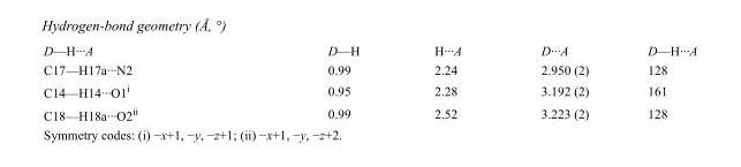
<table><tbody><tr><td>D—H···A</td><td>D—H</td><td>H···A</td><td>D···A</td><td>D—H···A</td></tr><tr><td>C17—H17a···N2</td><td>0.99</td><td>2.24</td><td>2.950 (2)</td><td>128</td></tr><tr><td>C14—H14···O1<sup>i</sup></td><td>0.95</td><td>2.28</td><td>3.192 (2)</td><td>161</td></tr><tr><td>C18—H18a···O2<sup>ii</sup></td><td>0.99</td><td>2.52</td><td>3.223 (2)</td><td>128</td></tr></tbody></table>